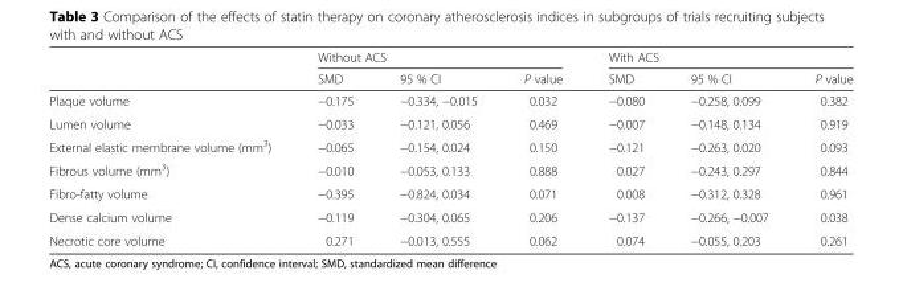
<table><thead><tr><td rowspan="2"></td><td colspan="3">Without ACS</td><td colspan="3">With ACS</td></tr><tr><td>SMD</td><td>95 % CI</td><td>P value</td><td>SMD</td><td>95 % CI</td><td>P value</td></tr></thead><tbody><tr><td>Plaque volume</td><td>−0.175</td><td>−0.334, −0.015</td><td>0.032</td><td>−0.080</td><td>−0.258, 0.099</td><td>0.382</td></tr><tr><td>Lumen volume</td><td>−0.033</td><td>−0.121, 0.056</td><td>0.469</td><td>−0.007</td><td>−0.148, 0.134</td><td>0.919</td></tr><tr><td>External elastic membrane volume (mm<sup>3</sup>)</td><td>−0.065</td><td>−0.154, 0.024</td><td>0.150</td><td>−0.121</td><td>−0.263, 0.020</td><td>0.093</td></tr><tr><td>Fibrous volume (mm<sup>3</sup>)</td><td>−0.010</td><td>−0.053, 0.133</td><td>0.888</td><td>0.027</td><td>−0.243, 0.297</td><td>0.844</td></tr><tr><td>Fibro-fatty volume</td><td>−0.395</td><td>−0.824, 0.034</td><td>0.071</td><td>0.008</td><td>−0.312, 0.328</td><td>0.961</td></tr><tr><td>Dense calcium volume</td><td>−0.119</td><td>−0.304, 0.065</td><td>0.206</td><td>−0.137</td><td>−0.266, −0.007</td><td>0.038</td></tr><tr><td>Necrotic core volume</td><td>0.271</td><td>−0.013, 0.555</td><td>0.062</td><td>0.074</td><td>−0.055, 0.203</td><td>0.261</td></tr></tbody></table>